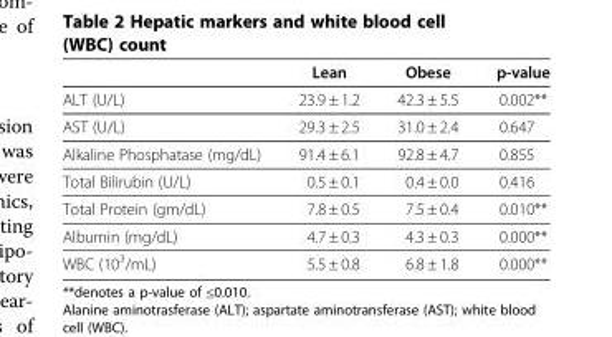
<table><thead><tr><td></td><td>Lean</td><td>Obese</td><td>p-value</td></tr></thead><tbody><tr><td>ALT (U/L)</td><td>23.9 ± 1.2</td><td>42.3 ± 5.5</td><td>0.002**</td></tr><tr><td>AST (U/L)</td><td>29.3 ± 2.5</td><td>31.0 ± 2.4</td><td>0.647</td></tr><tr><td>Alkaline Phosphatase (mg/dL)</td><td>91.4 ± 6.1</td><td>92.8 ± 4.7</td><td>0.855</td></tr><tr><td>Total Bilirubin (U/L)</td><td>0.5 ± 0.1</td><td>0.4 ± 0.0</td><td>0.416</td></tr><tr><td>Total Protein (gm/dL)</td><td>7.8 ± 0.5</td><td>7.5 ± 0.4</td><td>0.010**</td></tr><tr><td>Albumin (mg/dL)</td><td>4.7 ± 0.3</td><td>4.3 ± 0.3</td><td>0.000**</td></tr><tr><td>WBC (10<sup>3</sup>/mL)</td><td>5.5 ± 0.8</td><td>6.8 ± 1.8</td><td>0.000**</td></tr></tbody></table>